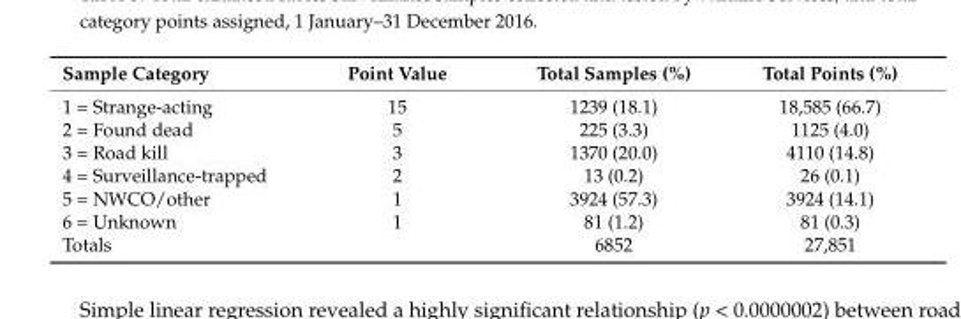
<table><thead><tr><td>Sample Category</td><td>Point Value</td><td>Total Samples (%)</td><td>Total Points (%)</td></tr></thead><tbody><tr><td>1 = Strange-acting</td><td>15</td><td>1239 (18.1)</td><td>18,585 (66.7)</td></tr><tr><td>2 = Found dead</td><td>5</td><td>225 (3.3)</td><td>1125 (4.0)</td></tr><tr><td>3 = Road kill</td><td>3</td><td>1370 (20.0)</td><td>4110 (14.8)</td></tr><tr><td>4 = Surveillance-trapped</td><td>2</td><td>13 (0.2)</td><td>26 (0.1)</td></tr><tr><td>5 = NWCO/other</td><td>1</td><td>3924 (57.3)</td><td>3924 (14.1)</td></tr><tr><td>6 = Unknown</td><td>1</td><td>81 (1.2)</td><td>81 (0.3)</td></tr><tr><td>Totals</td><td></td><td>6852</td><td>27,851</td></tr></tbody></table>